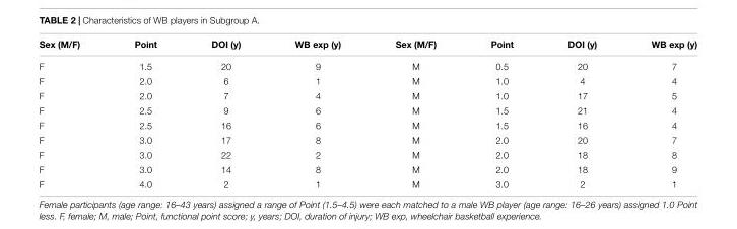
<table><thead><tr><td>Sex (M/F)</td><td>Point</td><td>DOI (y)</td><td>WB exp (y)</td><td>Sex (M/F)</td><td>Point</td><td>DOI (y)</td><td>WB exp (y)</td></tr></thead><tbody><tr><td>F</td><td>1.5</td><td>20</td><td>9</td><td>M</td><td>0.5</td><td>20</td><td>7</td></tr><tr><td>F</td><td>2.0</td><td>6</td><td>1</td><td>M</td><td>1.0</td><td>4</td><td>4</td></tr><tr><td>F</td><td>2.0</td><td>7</td><td>4</td><td>M</td><td>1.0</td><td>17</td><td>5</td></tr><tr><td>F</td><td>2.5</td><td>9</td><td>6</td><td>M</td><td>1.5</td><td>21</td><td>4</td></tr><tr><td>F</td><td>2.5</td><td>16</td><td>6</td><td>M</td><td>1.5</td><td>16</td><td>4</td></tr><tr><td>F</td><td>3.0</td><td>17</td><td>8</td><td>M</td><td>2.0</td><td>20</td><td>7</td></tr><tr><td>F</td><td>3.0</td><td>22</td><td>2</td><td>M</td><td>2.0</td><td>18</td><td>8</td></tr><tr><td>F</td><td>3.0</td><td>14</td><td>8</td><td>M</td><td>2.0</td><td>18</td><td>9</td></tr><tr><td>F</td><td>4.0</td><td>2</td><td>1</td><td>M</td><td>3.0</td><td>2</td><td>1</td></tr></tbody></table>